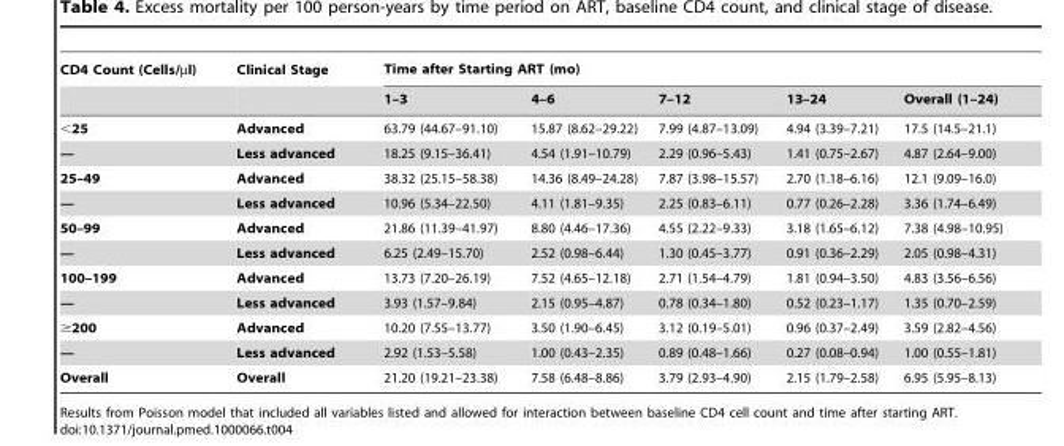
<table><thead><tr><td rowspan="2">CD4 Count (Cells/µl)</td><td rowspan="2">Clinical Stage</td><td colspan="5">Time after Starting ART (mo)</td></tr><tr><td>1–3</td><td>4–6</td><td>7–12</td><td>13–24</td><td>Overall (1–24)</td></tr></thead><tbody><tr><td>&lt;25</td><td>Advanced</td><td>63.79 (44.67–91.10)</td><td>15.87 (8.62–29.22)</td><td>7.99 (4.87–13.09)</td><td>4.94 (3.39–7.21)</td><td>17.5 (14.5–21.1)</td></tr><tr><td>—</td><td>Less advanced</td><td>18.25 (9.15–36.41)</td><td>4.54 (1.91–10.79)</td><td>2.29 (0.96–5.43)</td><td>1.41 (0.75–2.67)</td><td>4.87 (2.64–9.00)</td></tr><tr><td>25–49</td><td>Advanced</td><td>38.32 (25.15–58.38)</td><td>14.36 (8.49–24.28)</td><td>7.87 (3.98–15.57)</td><td>2.70 (1.18–6.16)</td><td>12.1 (9.09–16.0)</td></tr><tr><td>—</td><td>Less advanced</td><td>10.96 (5.34–22.50)</td><td>4.11 (1.81–9.35)</td><td>2.25 (0.83–6.11)</td><td>0.77 (0.26–2.28)</td><td>3.36 (1.74–6.49)</td></tr><tr><td>50–99</td><td>Advanced</td><td>21.86 (11.39–41.97)</td><td>8.80 (4.46–17.36)</td><td>4.55 (2.22–9.33)</td><td>3.18 (1.65–6.12)</td><td>7.38 (4.98–10.95)</td></tr><tr><td>—</td><td>Less advanced</td><td>6.25 (2.49–15.70)</td><td>2.52 (0.98–6.44)</td><td>1.30 (0.45–3.77)</td><td>0.91 (0.36–2.29)</td><td>2.05 (0.98–4.31)</td></tr><tr><td>100–199</td><td>Advanced</td><td>13.73 (7.20–26.19)</td><td>7.52 (4.65–12.18)</td><td>2.71 (1.54–4.79)</td><td>1.81 (0.94–3.50)</td><td>4.83 (3.56–6.56)</td></tr><tr><td>—</td><td>Less advanced</td><td>3.93 (1.57–9.84)</td><td>2.15 (0.95–4.87)</td><td>0.78 (0.34–1.80)</td><td>0.52 (0.23–1.17)</td><td>1.35 (0.70–2.59)</td></tr><tr><td>≥200</td><td>Advanced</td><td>10.20 (7.55–13.77)</td><td>3.50 (1.90–6.45)</td><td>3.12 (0.19–5.01)</td><td>0.96 (0.37–2.49)</td><td>3.59 (2.82–4.56)</td></tr><tr><td>—</td><td>Less advanced</td><td>2.92 (1.53–5.58)</td><td>1.00 (0.43–2.35)</td><td>0.89 (0.48–1.66)</td><td>0.27 (0.08–0.94)</td><td>1.00 (0.55–1.81)</td></tr><tr><td>Overall</td><td>Overall</td><td>21.20 (19.21–23.38)</td><td>7.58 (6.48–8.86)</td><td>3.79 (2.93–4.90)</td><td>2.15 (1.79–2.58)</td><td>6.95 (5.95–8.13)</td></tr></tbody></table>